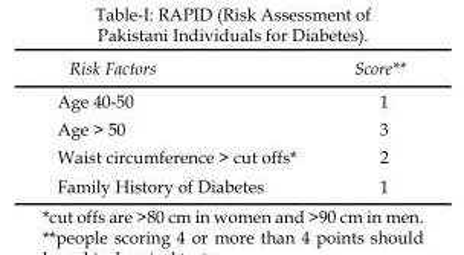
<table><thead><tr><td>Risk Factors</td><td>Score**</td></tr></thead><tbody><tr><td>Age 40-50</td><td>1</td></tr><tr><td>Age &gt; 50</td><td>3</td></tr><tr><td>Waist circumference &gt; cut offs*</td><td>2</td></tr><tr><td>Family History of Diabetes</td><td>1</td></tr></tbody></table>